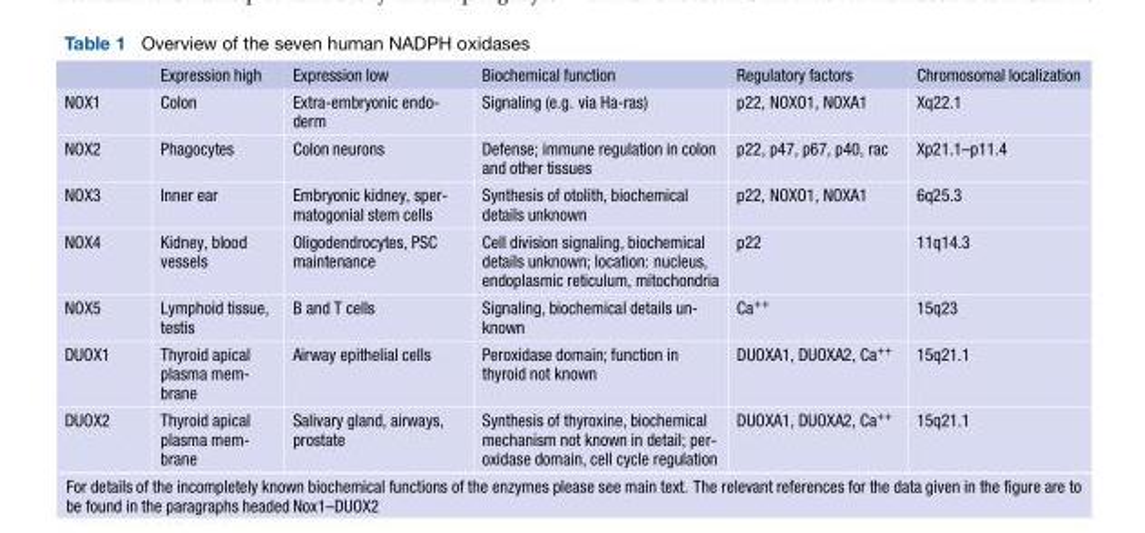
<table><thead><tr><td></td><td>Expression high</td><td>Expression low</td><td>Biochemical function</td><td>Regulatory factors</td><td>Chromosomal localization</td></tr></thead><tbody><tr><td>NOX1</td><td>Colon</td><td>Extra-embryonic endo- derm</td><td>Signaling (e.g. via Ha-ras)</td><td>p22, NOXO1, NOXA1</td><td>Xq22.1</td></tr><tr><td>NOX2</td><td>Phagocytes</td><td>Colon neurons</td><td>Defense; immune regulation in colon and other tissues</td><td>p22, p47, p67, p40, rac</td><td>Xp21.1–p11.4</td></tr><tr><td>NOX3</td><td>Inner ear</td><td>Embryonic kidney, sper- matogonial stem cells</td><td>Synthesis of otolith, biochemical details unknown</td><td>p22, NOXO1, NOXA1</td><td>6q25.3</td></tr><tr><td>NOX4</td><td>Kidney, blood vessels</td><td>Oligodendrocytes, PSC maintenance</td><td>Cell division signaling, biochemical details unknown; location: nucleus, endoplasmic reticulum, mitochondria</td><td>p22</td><td>11q14.3</td></tr><tr><td>NOX5</td><td>Lymphoid tissue, testis</td><td>B and T cells</td><td>Signaling, biochemical details un- known</td><td>Ca<sup>++</sup></td><td>15q23</td></tr><tr><td>DUOX1</td><td>Thyroid apical plasma mem- brane</td><td>Airway epithelial cells</td><td>Peroxidase domain; function in thyroid not known</td><td>DUOXA1, DUOXA2, Ca<sup>++</sup></td><td>15q21.1</td></tr><tr><td>DUOX2</td><td>Thyroid apical plasma mem- brane</td><td>Salivary gland, airways, prostate</td><td>Synthesis of thyroxine, biochemical mechanism not known in detail; per- oxidase domain, cell cycle regulation</td><td>DUOXA1, DUOXA2, Ca<sup>++</sup></td><td>15q21.1</td></tr></tbody></table>